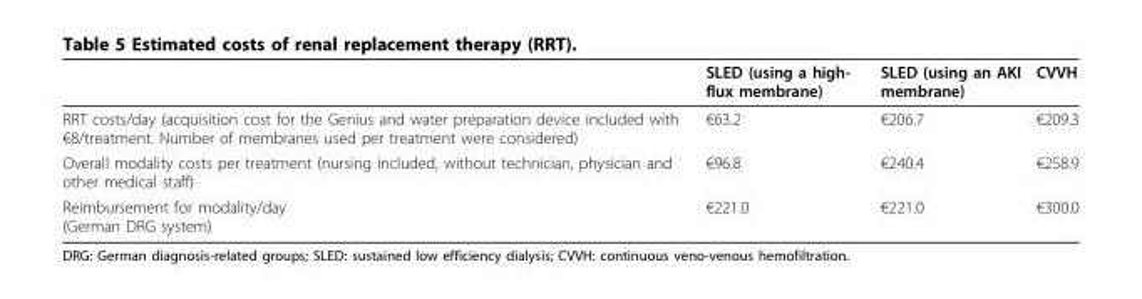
<table><thead><tr><td></td><td>SLED (using a high- flux membrane)</td><td>SLED (using an AKI membrane)</td><td>CVVH</td></tr></thead><tbody><tr><td>RRT costs/day (acquisition cost for the Genius and water preparation device included with €8/treatment. Number of membranes used per treatment were considered)</td><td>€63.2</td><td>€206.7</td><td>€209.3</td></tr><tr><td>Overall modality costs per treatment (nursing included, without technician, physician and other medical staff)</td><td>€96.8</td><td>€240.4</td><td>€258.9</td></tr><tr><td>Reimbursement for modality/day (German DRG system)</td><td>€221.0</td><td>€221.0</td><td>€300.0</td></tr></tbody></table>